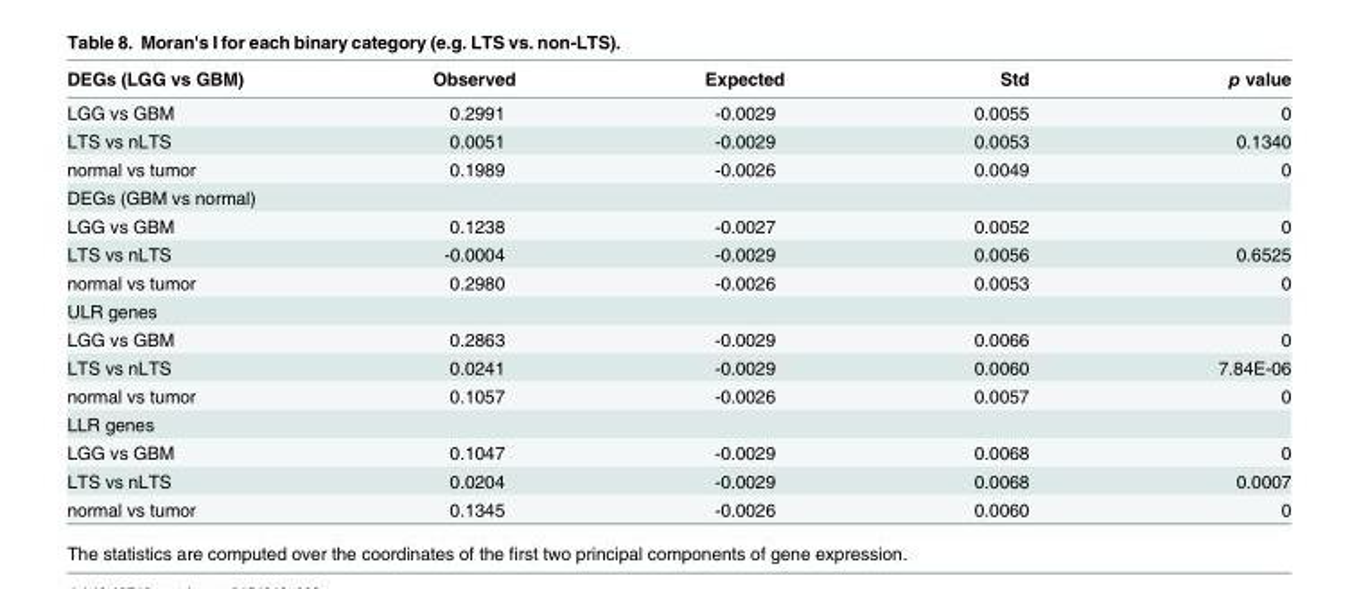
<table><thead><tr><td>DEGs (LGG vs GBM)</td><td>Observed</td><td>Expected</td><td>Std</td><td>p value</td></tr></thead><tbody><tr><td>LGG vs GBM</td><td>0.2991</td><td>-0.0029</td><td>0.0055</td><td>0</td></tr><tr><td>LTS vs nLTS</td><td>0.0051</td><td>-0.0029</td><td>0.0053</td><td>0.1340</td></tr><tr><td>normal vs tumor</td><td>0.1989</td><td>-0.0026</td><td>0.0049</td><td>0</td></tr><tr><td colspan="5">DEGs (GBM vs normal)</td></tr><tr><td>LGG vs GBM</td><td>0.1238</td><td>-0.0027</td><td>0.0052</td><td>0</td></tr><tr><td>LTS vs nLTS</td><td>-0.0004</td><td>-0.0029</td><td>0.0056</td><td>0.6525</td></tr><tr><td>normal vs tumor</td><td>0.2980</td><td>-0.0026</td><td>0.0053</td><td>0</td></tr><tr><td colspan="5">ULR genes</td></tr><tr><td>LGG vs GBM</td><td>0.2863</td><td>-0.0029</td><td>0.0066</td><td>0</td></tr><tr><td>LTS vs nLTS</td><td>0.0241</td><td>-0.0029</td><td>0.0060</td><td>7.84E-06</td></tr><tr><td>normal vs tumor</td><td>0.1057</td><td>-0.0026</td><td>0.0057</td><td>0</td></tr><tr><td colspan="5">LLR genes</td></tr><tr><td>LGG vs GBM</td><td>0.1047</td><td>-0.0029</td><td>0.0068</td><td>0</td></tr><tr><td>LTS vs nLTS</td><td>0.0204</td><td>-0.0029</td><td>0.0068</td><td>0.0007</td></tr><tr><td>normal vs tumor</td><td>0.1345</td><td>-0.0026</td><td>0.0060</td><td>0</td></tr></tbody></table>